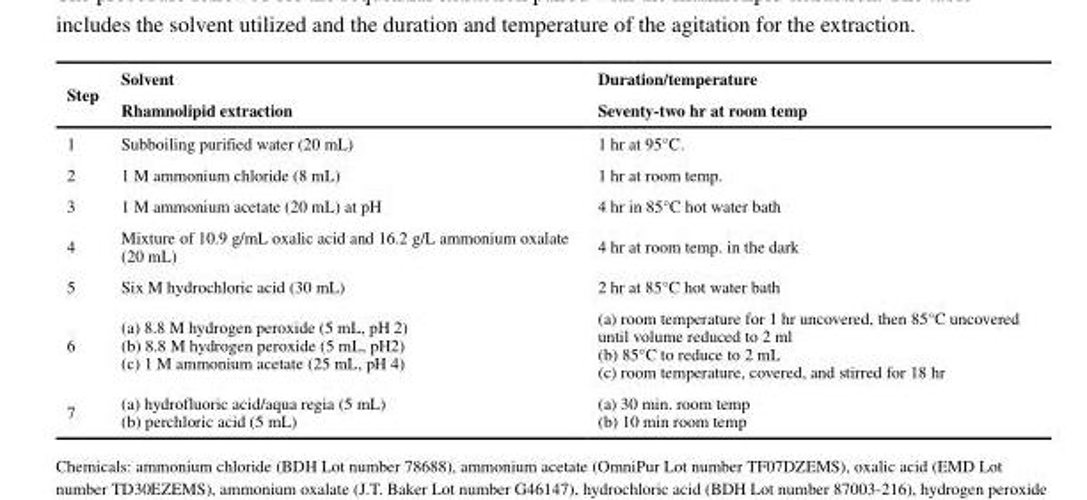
<table><thead><tr><td rowspan="2">Step</td><td rowspan="2">Solvent Rhamnolipid extraction</td><td rowspan="2">Duration/temperature Seventy-two hr at room temp</td></tr><tr></tr></thead><tbody><tr><td>1</td><td>Subboiling purified water (20 mL)</td><td>1 hr at 95°C.</td></tr><tr><td>2</td><td>1 M ammonium chloride (8 mL)</td><td>1 hr at room temp.</td></tr><tr><td>3</td><td>1 M ammonium acetate (20 mL) at pH</td><td>4 hr in 85°C hot water bath</td></tr><tr><td>4</td><td>Mixture of 10.9 g/mL oxalic acid and 16.2 g/L ammonium oxalate (20 mL)</td><td>4 hr at room temp. in the dark</td></tr><tr><td>5</td><td>Six M hydrochloric acid (30 mL)</td><td>2 hr at 85°C hot water bath</td></tr><tr><td>6</td><td>(a) 8.8 M hydrogen peroxide (5 mL, pH 2) (b) 8.8 M hydrogen peroxide (5 mL, pH2) (c) 1 M ammonium acetate (25 mL, pH 4)</td><td>(a) room temperature for 1 hr uncovered, then 85°C uncovered until volume reduced to 2 ml (b) 85°C to reduce to 2 mL (c) room temperature, covered, and stirred for 18 hr</td></tr><tr><td>7</td><td>(a) hydrofluoric acid/aqua regia (5 mL) (b) perchloric acid (5 mL)</td><td>(a) 30 min. room temp (b) 10 min room temp</td></tr></tbody></table>